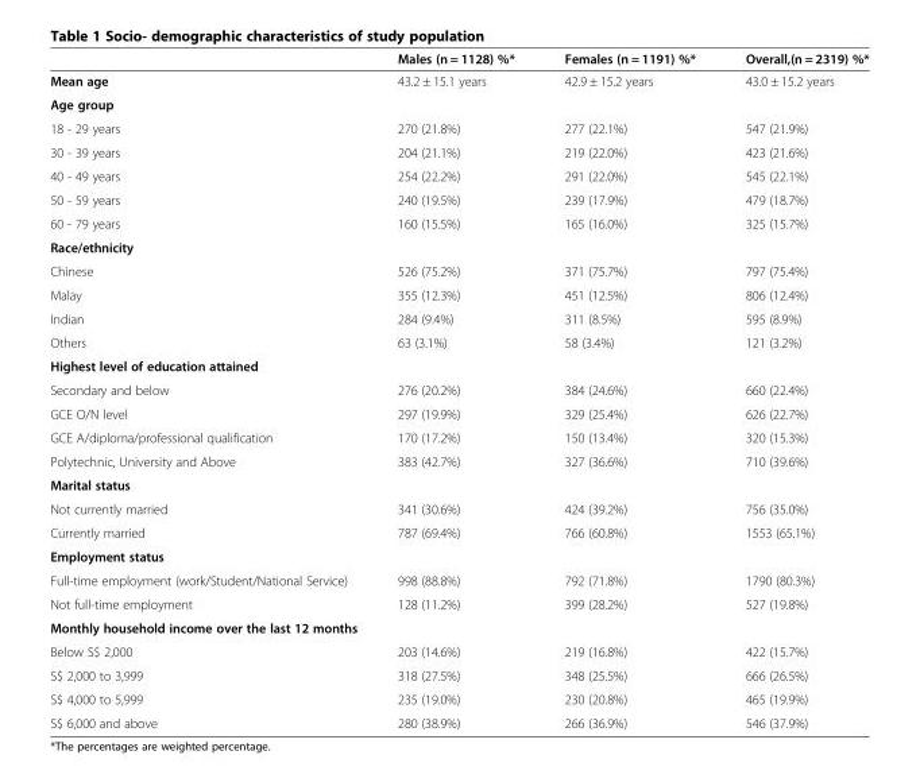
<table><thead><tr><td></td><td>Males (n = 1128) %*</td><td>Females (n = 1191) %*</td><td>Overall,(n = 2319) %*</td></tr></thead><tbody><tr><td>Mean age</td><td>43.2 ± 15.1 years</td><td>42.9 ± 15.2 years</td><td>43.0 ± 15.2 years</td></tr><tr><td colspan="4">Age group</td></tr><tr><td>18 - 29 years</td><td>270 (21.8%)</td><td>277 (22.1%)</td><td>547 (21.9%)</td></tr><tr><td>30 - 39 years</td><td>204 (21.1%)</td><td>219 (22.0%)</td><td>423 (21.6%)</td></tr><tr><td>40 - 49 years</td><td>254 (22.2%)</td><td>291 (22.0%)</td><td>545 (22.1%)</td></tr><tr><td>50 - 59 years</td><td>240 (19.5%)</td><td>239 (17.9%)</td><td>479 (18.7%)</td></tr><tr><td>60 - 79 years</td><td>160 (15.5%)</td><td>165 (16.0%)</td><td>325 (15.7%)</td></tr><tr><td colspan="4">Race/ethnicity</td></tr><tr><td>Chinese</td><td>526 (75.2%)</td><td>371 (75.7%)</td><td>797 (75.4%)</td></tr><tr><td>Malay</td><td>355 (12.3%)</td><td>451 (12.5%)</td><td>806 (12.4%)</td></tr><tr><td>Indian</td><td>284 (9.4%)</td><td>311 (8.5%)</td><td>595 (8.9%)</td></tr><tr><td>Others</td><td>63 (3.1%)</td><td>58 (3.4%)</td><td>121 (3.2%)</td></tr><tr><td colspan="4">Highest level of education attained</td></tr><tr><td>Secondary and below</td><td>276 (20.2%)</td><td>384 (24.6%)</td><td>660 (22.4%)</td></tr><tr><td>GCE O/N level</td><td>297 (19.9%)</td><td>329 (25.4%)</td><td>626 (22.7%)</td></tr><tr><td>GCE A/diploma/professional qualification</td><td>170 (17.2%)</td><td>150 (13.4%)</td><td>320 (15.3%)</td></tr><tr><td>Polytechnic, University and Above</td><td>383 (42.7%)</td><td>327 (36.6%)</td><td>710 (39.6%)</td></tr><tr><td colspan="4">Marital status</td></tr><tr><td>Not currently married</td><td>341 (30.6%)</td><td>424 (39.2%)</td><td>756 (35.0%)</td></tr><tr><td>Currently married</td><td>787 (69.4%)</td><td>766 (60.8%)</td><td>1553 (65.1%)</td></tr><tr><td colspan="4">Employment status</td></tr><tr><td>Full-time employment (work/Student/National Service)</td><td>998 (88.8%)</td><td>792 (71.8%)</td><td>1790 (80.3%)</td></tr><tr><td>Not full-time employment</td><td>128 (11.2%)</td><td>399 (28.2%)</td><td>527 (19.8%)</td></tr><tr><td colspan="4">Monthly household income over the last 12 months</td></tr><tr><td>Below S$ 2,000</td><td>203 (14.6%)</td><td>219 (16.8%)</td><td>422 (15.7%)</td></tr><tr><td>S$ 2,000 to 3,999</td><td>318 (27.5%)</td><td>348 (25.5%)</td><td>666 (26.5%)</td></tr><tr><td>S$ 4,000 to 5,999</td><td>235 (19.0%)</td><td>230 (20.8%)</td><td>465 (19.9%)</td></tr><tr><td>S$ 6,000 and above</td><td>280 (38.9%)</td><td>266 (36.9%)</td><td>546 (37.9%)</td></tr></tbody></table>